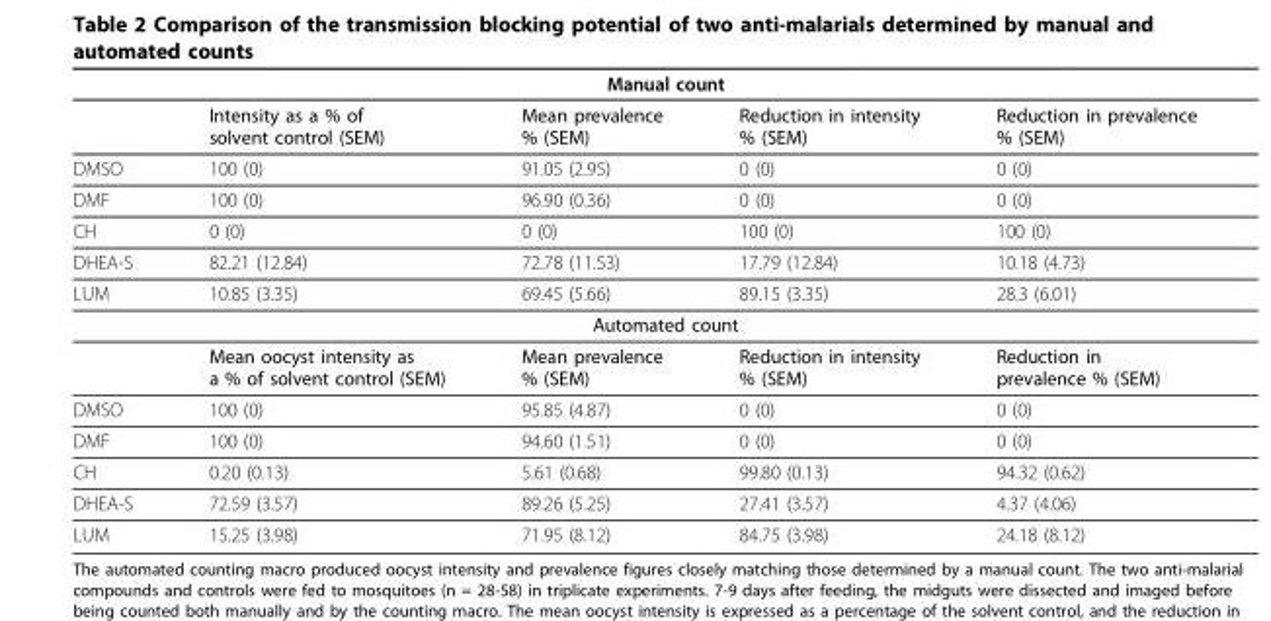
<table><thead><tr><td colspan="5">Manual count</td></tr><tr><td></td><td>Intensity as a % of solvent control (SEM)</td><td>Mean prevalence % (SEM)</td><td>Reduction in intensity % (SEM)</td><td>Reduction in prevalence % (SEM)</td></tr></thead><tbody><tr><td>DMSO</td><td>100 (0)</td><td>91.05 (2.95)</td><td>0 (0)</td><td>0 (0)</td></tr><tr><td>DMF</td><td>100 (0)</td><td>96.90 (0.36)</td><td>0 (0)</td><td>0 (0)</td></tr><tr><td>CH</td><td>0 (0)</td><td>0 (0)</td><td>100 (0)</td><td>100 (0)</td></tr><tr><td>DHEA-S</td><td>82.21 (12.84)</td><td>72.78 (11.53)</td><td>17.79 (12.84)</td><td>10.18 (4.73)</td></tr><tr><td>LUM</td><td>10.85 (3.35)</td><td>69.45 (5.66)</td><td>89.15 (3.35)</td><td>28.3 (6.01)</td></tr><tr><td colspan="5">Automated count</td></tr><tr><td></td><td>Mean oocyst intensity as a % of solvent control (SEM)</td><td>Mean prevalence % (SEM)</td><td>Reduction in intensity % (SEM)</td><td>Reduction in prevalence % (SEM)</td></tr><tr><td>DMSO</td><td>100 (0)</td><td>95.85 (4.87)</td><td>0 (0)</td><td>0 (0)</td></tr><tr><td>DMF</td><td>100 (0)</td><td>94.60 (1.51)</td><td>0 (0)</td><td>0 (0)</td></tr><tr><td>CH</td><td>0.20 (0.13)</td><td>5.61 (0.68)</td><td>99.80 (0.13)</td><td>94.32 (0.62)</td></tr><tr><td>DHEA-S</td><td>72.59 (3.57)</td><td>89.26 (5.25)</td><td>27.41 (3.57)</td><td>4.37 (4.06)</td></tr><tr><td>LUM</td><td>15.25 (3.98)</td><td>71.95 (8.12)</td><td>84.75 (3.98)</td><td>24.18 (8.12)</td></tr></tbody></table>